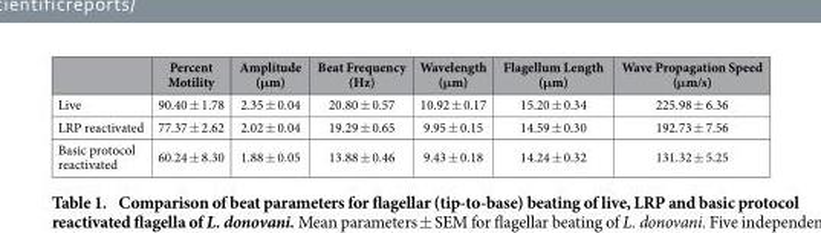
<table><thead><tr><td></td><td>Percent Motility</td><td>Amplitude (μm)</td><td>Beat Frequency (Hz)</td><td>Wavelength (μm)</td><td>Flagellum Length (μm)</td><td>Wave Propagation Speed (μm/s)</td></tr></thead><tbody><tr><td>Live</td><td>90.40 ± 1.78</td><td>2.35 ± 0.04</td><td>20.80 ± 0.57</td><td>10.92 ± 0.17</td><td>15.20 ± 0.34</td><td>225.98 ± 6.36</td></tr><tr><td>LRP reactivated</td><td>77.37 ± 2.62</td><td>2.02 ± 0.04</td><td>19.29 ± 0.65</td><td>9.95 ± 0.15</td><td>14.59 ± 0.30</td><td>192.73 ± 7.56</td></tr><tr><td>Basic protocol reactivated</td><td>60.24 ± 8.30</td><td>1.88 ± 0.05</td><td>13.88 ± 0.46</td><td>9.43 ± 0.18</td><td>14.24 ± 0.32</td><td>131.32 ± 5.25</td></tr></tbody></table>